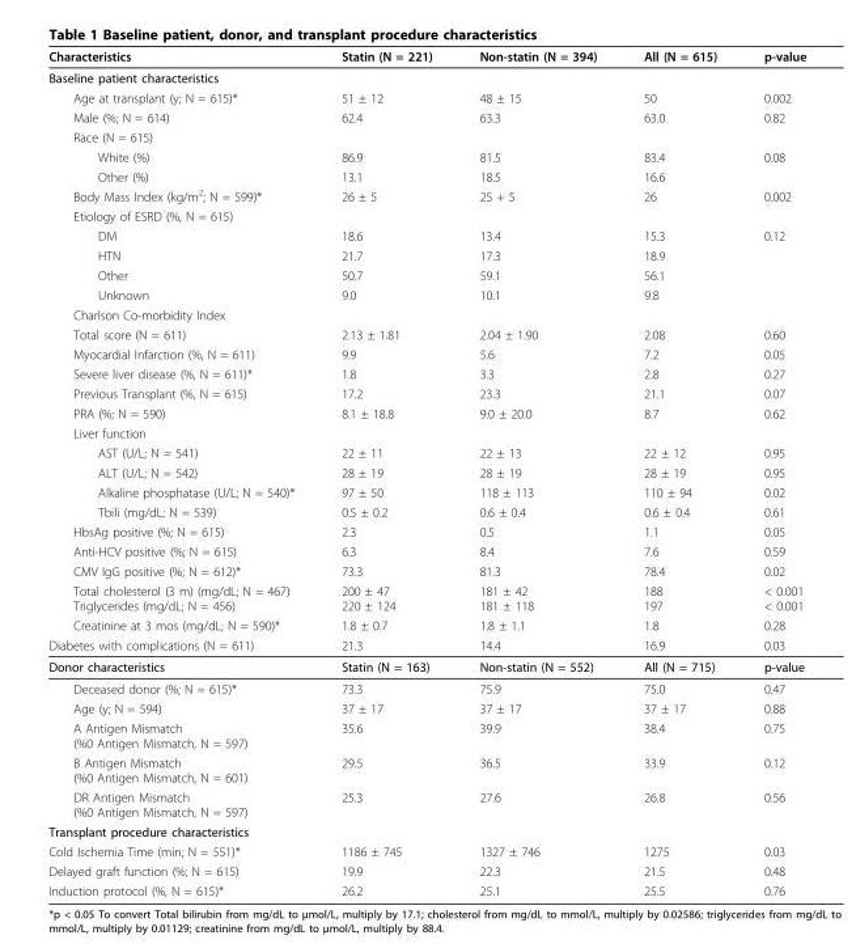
<table><thead><tr><td>Characteristics</td><td>Statin (N = 221)</td><td>Non-statin (N = 394)</td><td>All (N = 615)</td><td>p-value</td></tr></thead><tbody><tr><td colspan="5">Baseline patient characteristics</td></tr><tr><td>Age at transplant (y; N = 615)*</td><td>51 ± 12</td><td>48 ± 15</td><td>50</td><td>0.002</td></tr><tr><td>Male (%; N = 614)</td><td>62.4</td><td>63.3</td><td>63.0</td><td>0.82</td></tr><tr><td colspan="5">Race (N = 615)</td></tr><tr><td>White (%)</td><td>86.9</td><td>81.5</td><td>83.4</td><td>0.08</td></tr><tr><td>Other (%)</td><td>13.1</td><td>18.5</td><td>16.6</td><td></td></tr><tr><td>Body Mass Index (kg/m<sup>2</sup>; N = 599)*</td><td>26 ± 5</td><td>25 + 5</td><td>26</td><td>0.002</td></tr><tr><td colspan="5">Etiology of ESRD (%, N = 615)</td></tr><tr><td>DM</td><td>18.6</td><td>13.4</td><td>15.3</td><td>0.12</td></tr><tr><td>HTN</td><td>21.7</td><td>17.3</td><td>18.9</td><td></td></tr><tr><td>Other</td><td>50.7</td><td>59.1</td><td>56.1</td><td></td></tr><tr><td>Unknown</td><td>9.0</td><td>10.1</td><td>9.8</td><td></td></tr><tr><td colspan="5">Charlson Co-morbidity Index</td></tr><tr><td>Total score (N = 611)</td><td>2.13 ± 1.81</td><td>2.04 ± 1.90</td><td>2.08</td><td>0.60</td></tr><tr><td>Myocardial Infarction (%, N = 611)</td><td>9.9</td><td>5.6</td><td>7.2</td><td>0.05</td></tr><tr><td>Severe liver disease (%, N = 611)*</td><td>1.8</td><td>3.3</td><td>2.8</td><td>0.27</td></tr><tr><td>Previous Transplant (%, N = 615)</td><td>17.2</td><td>23.3</td><td>21.1</td><td>0.07</td></tr><tr><td>PRA (%; N = 590)</td><td>8.1 ± 18.8</td><td>9.0 ± 20.0</td><td>8.7</td><td>0.62</td></tr><tr><td colspan="5">Liver function</td></tr><tr><td>AST (U/L; N = 541)</td><td>22 ± 11</td><td>22 ± 13</td><td>22 ± 12</td><td>0.95</td></tr><tr><td>ALT (U/L; N = 542)</td><td>28 ± 19</td><td>28 ± 19</td><td>28 ± 19</td><td>0.95</td></tr><tr><td>Alkaline phosphatase (U/L; N = 540)*</td><td>97 ± 50</td><td>118 ± 113</td><td>110 ± 94</td><td>0.02</td></tr><tr><td>Tbili (mg/dL; N = 539)</td><td>0.5 ± 0.2</td><td>0.6 ± 0.4</td><td>0.6 ± 0.4</td><td>0.61</td></tr><tr><td>HbsAg positive (%; N = 615)</td><td>2.3</td><td>0.5</td><td>1.1</td><td>0.05</td></tr><tr><td>Anti-HCV positive (%; N = 615)</td><td>6.3</td><td>8.4</td><td>7.6</td><td>0.59</td></tr><tr><td>CMV IgG positive (%; N = 612)*</td><td>73.3</td><td>81.3</td><td>78.4</td><td>0.02</td></tr><tr><td>Total cholesterol (3 m) (mg/dL; N = 467) Triglycerides (mg/dL; N = 456)</td><td>200 ± 47 220 ± 124</td><td>181 ± 42 181 ± 118</td><td>188 197</td><td>&lt; 0.001 &lt; 0.001</td></tr><tr><td>Creatinine at 3 mos (mg/dL; N = 590)*</td><td>1.8 ± 0.7</td><td>1.8 ± 1.1</td><td>1.8</td><td>0.28</td></tr><tr><td>Diabetes with complications (N = 611)</td><td>21.3</td><td>14.4</td><td>16.9</td><td>0.03</td></tr><tr><td>Donor characteristics</td><td>Statin (N = 163)</td><td>Non-statin (N = 552)</td><td>All (N = 715)</td><td>p-value</td></tr><tr><td>Deceased donor (%; N = 615)*</td><td>73.3</td><td>75.9</td><td>75.0</td><td>0.47</td></tr><tr><td>Age (y; N = 594)</td><td>37 ± 17</td><td>37 ± 17</td><td>37 ± 17</td><td>0.88</td></tr><tr><td>A Antigen Mismatch (%0 Antigen Mismatch, N = 597)</td><td>35.6</td><td>39.9</td><td>38.4</td><td>0.75</td></tr><tr><td>B Antigen Mismatch (%0 Antigen Mismatch, N = 601)</td><td>29.5</td><td>36.5</td><td>33.9</td><td>0.12</td></tr><tr><td>DR Antigen Mismatch (%0 Antigen Mismatch, N = 597)</td><td>25.3</td><td>27.6</td><td>26.8</td><td>0.56</td></tr><tr><td colspan="5">Transplant procedure characteristics</td></tr><tr><td>Cold Ischemia Time (min; N = 551)*</td><td>1186 ± 745</td><td>1327 ± 746</td><td>1275</td><td>0.03</td></tr><tr><td>Delayed graft function (%; N = 615)</td><td>19.9</td><td>22.3</td><td>21.5</td><td>0.48</td></tr><tr><td>Induction protocol (%, N = 615)*</td><td>26.2</td><td>25.1</td><td>25.5</td><td>0.76</td></tr></tbody></table>